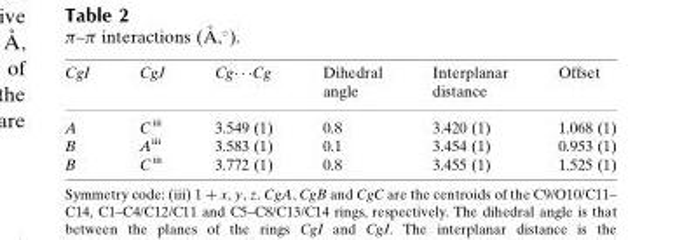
<table><thead><tr><td>CgI</td><td>CgJ</td><td>Cg� � �Cg</td><td>Dihedral angle</td><td>Interplanar distance</td><td>Offset</td></tr></thead><tbody><tr><td>A</td><td>C <sup>iii</sup></td><td>3.549 (1)</td><td>0.8</td><td>3.420 (1)</td><td>1.068 (1)</td></tr><tr><td>B</td><td>A<sup>iii</sup></td><td>3.583 (1)</td><td>0.1</td><td>3.454 (1)</td><td>0.953 (1)</td></tr><tr><td>B</td><td>C <sup>iii</sup></td><td>3.772 (1)</td><td>0.8</td><td>3.455 (1)</td><td>1.525 (1)</td></tr></tbody></table>